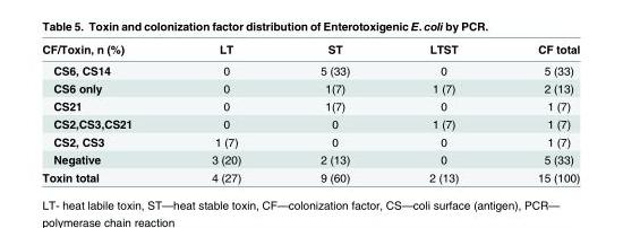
<table><thead><tr><td>CF/Toxin, n (%)</td><td>LT</td><td>ST</td><td>LTST</td><td>CF total</td></tr></thead><tbody><tr><td>CS6, CS14</td><td>0</td><td>5 (33)</td><td>0</td><td>5 (33)</td></tr><tr><td>CS6 only</td><td>0</td><td>1(7)</td><td>1 (7)</td><td>2 (13)</td></tr><tr><td>CS21</td><td>0</td><td>1(7)</td><td>0</td><td>1 (7)</td></tr><tr><td>CS2,CS3,CS21</td><td>0</td><td>0</td><td>1 (7)</td><td>1 (7)</td></tr><tr><td>CS2, CS3</td><td>1 (7)</td><td>0</td><td>0</td><td>1 (7)</td></tr><tr><td>Negative</td><td>3 (20)</td><td>2 (13)</td><td>0</td><td>5 (33)</td></tr><tr><td>Toxin total</td><td>4 (27)</td><td>9 (60)</td><td>2 (13)</td><td>15 (100)</td></tr></tbody></table>